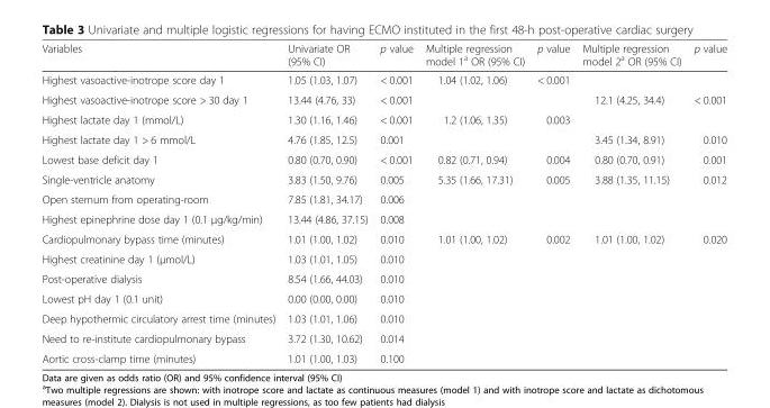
<table><thead><tr><td>Variables</td><td>Univariate OR (95% CI)</td><td>p value</td><td>Multiple regression model 1<sup>a</sup> OR (95% CI)</td><td>p value</td><td>Multiple regression model 2<sup>a</sup> OR (95% CI)</td><td>p value</td></tr></thead><tbody><tr><td>Highest vasoactive-inotrope score day 1</td><td>1.05 (1.03, 1.07)</td><td>&lt; 0.001</td><td>1.04 (1.02, 1.06)</td><td>&lt; 0.001</td><td></td><td></td></tr><tr><td>Highest vasoactive-inotrope score &gt; 30 day 1</td><td>13.44 (4.76, 33)</td><td>&lt; 0.001</td><td></td><td></td><td>12.1 (4.25, 34.4)</td><td>&lt; 0.001</td></tr><tr><td>Highest lactate day 1 (mmol/L)</td><td>1.30 (1.16, 1.46)</td><td>&lt; 0.001</td><td>1.2 (1.06, 1.35)</td><td>0.003</td><td></td><td></td></tr><tr><td>Highest lactate day 1 &gt; 6 mmol/L</td><td>4.76 (1.85, 12.5)</td><td>0.001</td><td></td><td></td><td>3.45 (1.34, 8.91)</td><td>0.010</td></tr><tr><td>Lowest base deficit day 1</td><td>0.80 (0.70, 0.90)</td><td>&lt; 0.001</td><td>0.82 (0.71, 0.94)</td><td>0.004</td><td>0.80 (0.70, 0.91)</td><td>0.001</td></tr><tr><td>Single-ventricle anatomy</td><td>3.83 (1.50, 9.76)</td><td>0.005</td><td>5.35 (1.66, 17.31)</td><td>0.005</td><td>3.88 (1.35, 11.15)</td><td>0.012</td></tr><tr><td>Open sternum from operating-room</td><td>7.85 (1.81, 34.17)</td><td>0.006</td><td></td><td></td><td></td><td></td></tr><tr><td>Highest epinephrine dose day 1 (0.1 μg/kg/min)</td><td>13.44 (4.86, 37.15)</td><td>0.008</td><td></td><td></td><td></td><td></td></tr><tr><td>Cardiopulmonary bypass time (minutes)</td><td>1.01 (1.00, 1.02)</td><td>0.010</td><td>1.01 (1.00, 1.02)</td><td>0.002</td><td>1.01 (1.00, 1.02)</td><td>0.020</td></tr><tr><td>Highest creatinine day 1 (μmol/L)</td><td>1.03 (1.01, 1.05)</td><td>0.010</td><td></td><td></td><td></td><td></td></tr><tr><td>Post-operative dialysis</td><td>8.54 (1.66, 44.03)</td><td>0.010</td><td></td><td></td><td></td><td></td></tr><tr><td>Lowest pH day 1 (0.1 unit)</td><td>0.00 (0.00, 0.00)</td><td>0.010</td><td></td><td></td><td></td><td></td></tr><tr><td>Deep hypothermic circulatory arrest time (minutes)</td><td>1.03 (1.01, 1.06)</td><td>0.010</td><td></td><td></td><td></td><td></td></tr><tr><td>Need to re-institute cardiopulmonary bypass</td><td>3.72 (1.30, 10.62)</td><td>0.014</td><td></td><td></td><td></td><td></td></tr><tr><td>Aortic cross-clamp time (minutes)</td><td>1.01 (1.00, 1.03)</td><td>0.100</td><td></td><td></td><td></td><td></td></tr></tbody></table>